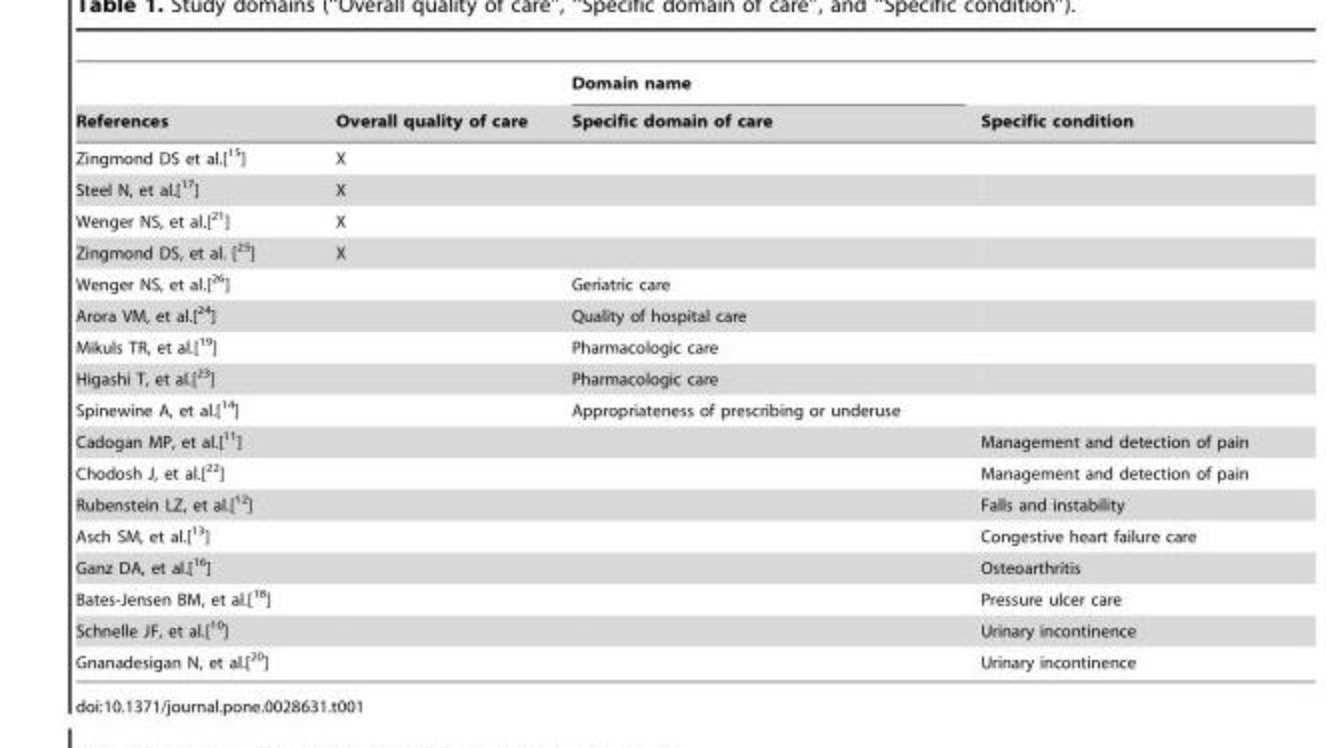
<table><thead><tr><td rowspan="2">References</td><td rowspan="2">Overall quality of care</td><td rowspan="2">Domain name Specific domain of care</td><td rowspan="2">Specific condition</td></tr><tr></tr></thead><tbody><tr><td>Zingmond DS et al.[<sup>15</sup>]</td><td>X</td><td></td><td></td></tr><tr><td>Steel N, et al.[<sup>17</sup>]</td><td>X</td><td></td><td></td></tr><tr><td>Wenger NS, et al.[<sup>21</sup>]</td><td>X</td><td></td><td></td></tr><tr><td>Zingmond DS, et al. [<sup>25</sup>]</td><td>X</td><td></td><td></td></tr><tr><td>Wenger NS, et al.[<sup>26</sup>]</td><td></td><td>Geriatric care</td><td></td></tr><tr><td>Arora VM, et al.[<sup>24</sup>]</td><td></td><td>Quality of hospital care</td><td></td></tr><tr><td>Mikuls TR, et al.[<sup>19</sup>]</td><td></td><td>Pharmacologic care</td><td></td></tr><tr><td>Higashi T, et al.[<sup>23</sup>]</td><td></td><td>Pharmacologic care</td><td></td></tr><tr><td>Spinewine A, et al.[<sup>14</sup>]</td><td></td><td>Appropriateness of prescribing or underuse</td><td></td></tr><tr><td>Cadogan MP, et al.[<sup>11</sup>]</td><td></td><td></td><td>Management and detection of pain</td></tr><tr><td>Chodosh J, et al.[<sup>22</sup>]</td><td></td><td></td><td>Management and detection of pain</td></tr><tr><td>Rubenstein LZ, et al.[<sup>12</sup>]</td><td></td><td></td><td>Falls and instability</td></tr><tr><td>Asch SM, et al.[<sup>13</sup>]</td><td></td><td></td><td>Congestive heart failure care</td></tr><tr><td>Ganz DA, et al.[<sup>16</sup>]</td><td></td><td></td><td>Osteoarthritis</td></tr><tr><td>Bates-Jensen BM, et al.[<sup>18</sup>]</td><td></td><td></td><td>Pressure ulcer care</td></tr><tr><td>Schnelle JF, et al.[<sup>10</sup>]</td><td></td><td></td><td>Urinary incontinence</td></tr><tr><td>Gnanadesigan N, et al.[<sup>20</sup>]</td><td></td><td></td><td>Urinary incontinence</td></tr></tbody></table>